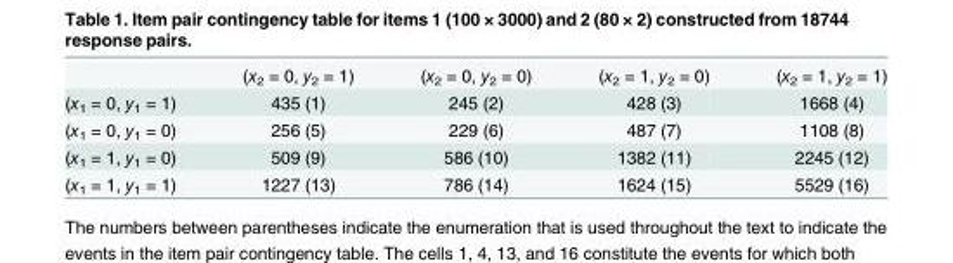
<table><thead><tr><td></td><td>(x<sub>2</sub> = 0, y<sub>2</sub> = 1)</td><td>(x<sub>2</sub> = 0, y<sub>2</sub> = 0)</td><td>(x<sub>2</sub> = 1, y<sub>2</sub> = 0)</td><td>(x<sub>2</sub> = 1, y<sub>2</sub> = 1)</td></tr></thead><tbody><tr><td>(x<sub>1</sub> = 0, y<sub>1</sub> = 1)</td><td>435 (1)</td><td>245 (2)</td><td>428 (3)</td><td>1668 (4)</td></tr><tr><td>(x<sub>1</sub> = 0, y<sub>1</sub> = 0)</td><td>256 (5)</td><td>229 (6)</td><td>487 (7)</td><td>1108 (8)</td></tr><tr><td>(x<sub>1</sub> = 1, y<sub>1</sub> = 0)</td><td>509 (9)</td><td>586 (10)</td><td>1382 (11)</td><td>2245 (12)</td></tr><tr><td>(x<sub>1</sub> = 1, y<sub>1</sub> = 1)</td><td>1227 (13)</td><td>786 (14)</td><td>1624 (15)</td><td>5529 (16)</td></tr></tbody></table>